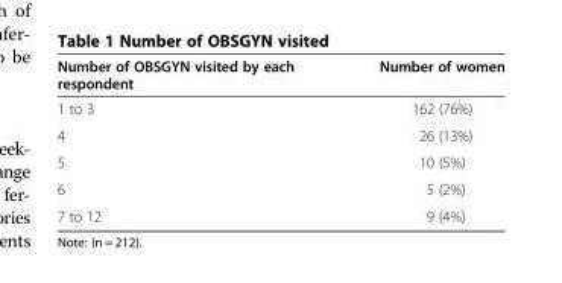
<table><thead><tr><td>Number of OBSGYN visited by each respondent</td><td>Number of women</td></tr></thead><tbody><tr><td>1 to 3</td><td>162 (76%)</td></tr><tr><td>4</td><td>26 (13%)</td></tr><tr><td>5</td><td>10 (5%)</td></tr><tr><td>6</td><td>5 (2%)</td></tr><tr><td>7 to 12</td><td>9 (4%)</td></tr></tbody></table>